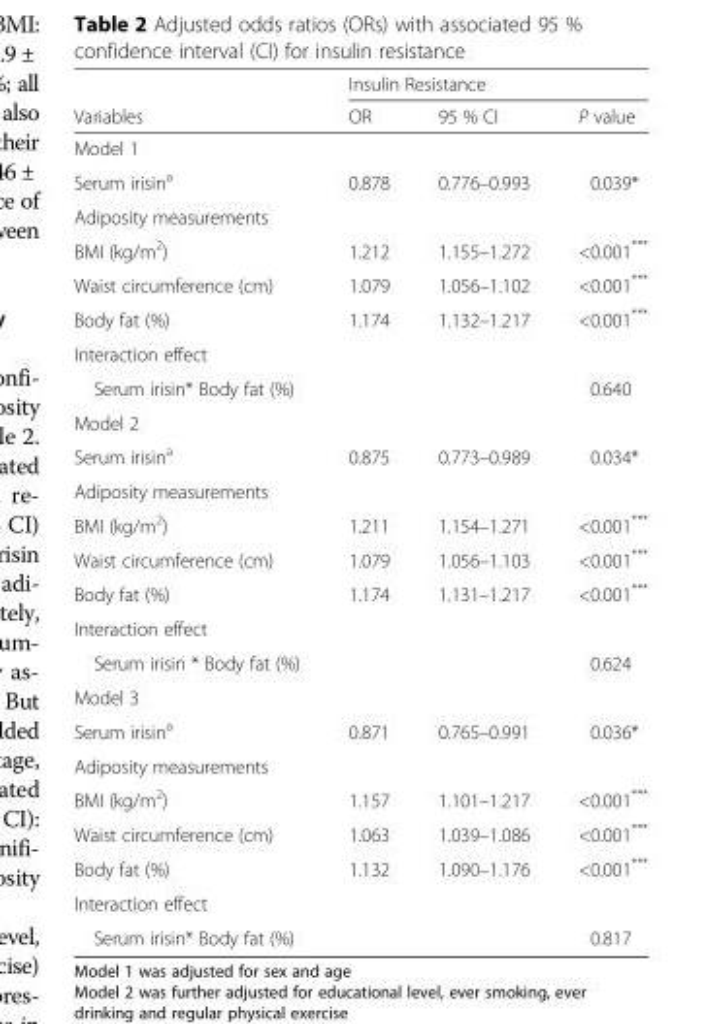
<table><thead><tr><td rowspan="2">Variables</td><td colspan="3">Insulin Resistance</td></tr><tr><td>OR</td><td>95 % CI</td><td>P value</td></tr></thead><tbody><tr><td colspan="4">Model 1</td></tr><tr><td>Serum irisin<sup>a</sup></td><td>0.878</td><td>0.776–0.993</td><td>0.039*</td></tr><tr><td colspan="4">Adiposity measurements</td></tr><tr><td>BMI (kg/m<sup>2</sup>)</td><td>1.212</td><td>1.155–1.272</td><td>&lt;0.001***</td></tr><tr><td>Waist circumference (cm)</td><td>1.079</td><td>1.056–1.102</td><td>&lt;0.001***</td></tr><tr><td>Body fat (%)</td><td>1.174</td><td>1.132–1.217</td><td>&lt;0.001***</td></tr><tr><td colspan="4">Interaction effect</td></tr><tr><td>Serum irisin* Body fat (%)</td><td></td><td></td><td>0.640</td></tr><tr><td colspan="4">Model 2</td></tr><tr><td>Serum irisin<sup>a</sup></td><td>0.875</td><td>0.773–0.989</td><td>0.034*</td></tr><tr><td colspan="4">Adiposity measurements</td></tr><tr><td>BMI (kg/m<sup>2</sup>)</td><td>1.211</td><td>1.154–1.271</td><td>&lt;0.001***</td></tr><tr><td>Waist circumference (cm)</td><td>1.079</td><td>1.056–1.103</td><td>&lt;0.001***</td></tr><tr><td>Body fat (%)</td><td>1.174</td><td>1.131–1.217</td><td>&lt;0.001***</td></tr><tr><td colspan="4">Interaction effect</td></tr><tr><td>Serum irisin * Body fat (%)</td><td></td><td></td><td>0.624</td></tr><tr><td colspan="4">Model 3</td></tr><tr><td>Serum irisin<sup>a</sup></td><td>0.871</td><td>0.765–0.991</td><td>0.036*</td></tr><tr><td colspan="4">Adiposity measurements</td></tr><tr><td>BMI (kg/m<sup>2</sup>)</td><td>1.157</td><td>1.101–1.217</td><td>&lt;0.001***</td></tr><tr><td>Waist circumference (cm)</td><td>1.063</td><td>1.039–1.086</td><td>&lt;0.001***</td></tr><tr><td>Body fat (%)</td><td>1.132</td><td>1.090–1.176</td><td>&lt;0.001***</td></tr><tr><td colspan="4">Interaction effect</td></tr><tr><td>Serum irisin* Body fat (%)</td><td></td><td></td><td>0.817</td></tr></tbody></table>